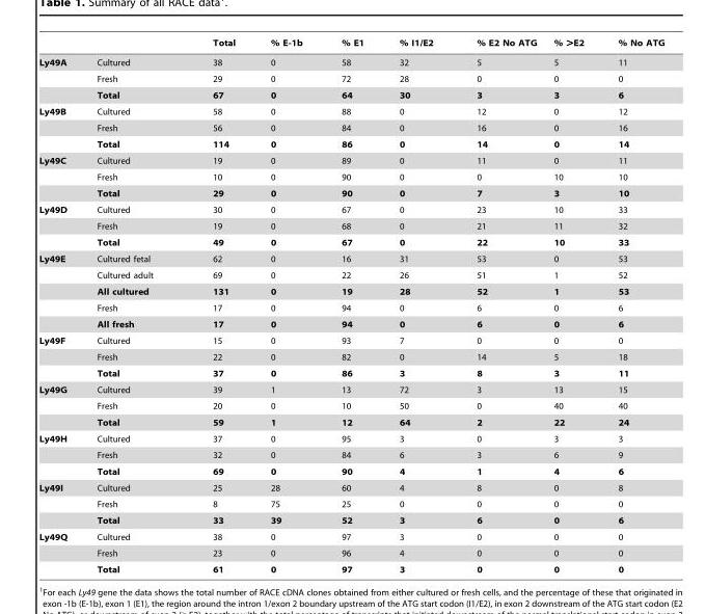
<table><thead><tr><td></td><td></td><td>Total</td><td>% E-1b</td><td>% E1</td><td>% I1/E2</td><td>% E2 No ATG</td><td>% &gt;E2</td><td>% No ATG</td></tr></thead><tbody><tr><td rowspan="3">Ly49A</td><td>Cultured</td><td>38</td><td>0</td><td>58</td><td>32</td><td>5</td><td>5</td><td>11</td></tr><tr><td>Fresh</td><td>29</td><td>0</td><td>72</td><td>28</td><td>0</td><td>0</td><td>0</td></tr><tr><td>Total</td><td>67</td><td>0</td><td>64</td><td>30</td><td>3</td><td>3</td><td>6</td></tr><tr><td rowspan="3">Ly49B</td><td>Cultured</td><td>58</td><td>0</td><td>88</td><td>0</td><td>12</td><td>0</td><td>12</td></tr><tr><td>Fresh</td><td>56</td><td>0</td><td>84</td><td>0</td><td>16</td><td>0</td><td>16</td></tr><tr><td>Total</td><td>114</td><td>0</td><td>86</td><td>0</td><td>14</td><td>0</td><td>14</td></tr><tr><td rowspan="3">Ly49C</td><td>Cultured</td><td>19</td><td>0</td><td>89</td><td>0</td><td>11</td><td>0</td><td>11</td></tr><tr><td>Fresh</td><td>10</td><td>0</td><td>90</td><td>0</td><td>0</td><td>10</td><td>10</td></tr><tr><td>Total</td><td>29</td><td>0</td><td>90</td><td>0</td><td>7</td><td>3</td><td>10</td></tr><tr><td rowspan="3">Ly49D</td><td>Cultured</td><td>30</td><td>0</td><td>67</td><td>0</td><td>23</td><td>10</td><td>33</td></tr><tr><td>Fresh</td><td>19</td><td>0</td><td>68</td><td>0</td><td>21</td><td>11</td><td>32</td></tr><tr><td>Total</td><td>49</td><td>0</td><td>67</td><td>0</td><td>22</td><td>10</td><td>33</td></tr><tr><td rowspan="5">Ly49E</td><td>Cultured fetal</td><td>62</td><td>0</td><td>16</td><td>31</td><td>53</td><td>0</td><td>53</td></tr><tr><td>Cultured adult</td><td>69</td><td>0</td><td>22</td><td>26</td><td>51</td><td>1</td><td>52</td></tr><tr><td>All cultured</td><td>131</td><td>0</td><td>19</td><td>28</td><td>52</td><td>1</td><td>53</td></tr><tr><td>Fresh</td><td>17</td><td>0</td><td>94</td><td>0</td><td>6</td><td>0</td><td>6</td></tr><tr><td>All fresh</td><td>17</td><td>0</td><td>94</td><td>0</td><td>6</td><td>0</td><td>6</td></tr><tr><td rowspan="3">Ly49F</td><td>Cultured</td><td>15</td><td>0</td><td>93</td><td>7</td><td>0</td><td>0</td><td>0</td></tr><tr><td>Fresh</td><td>22</td><td>0</td><td>82</td><td>0</td><td>14</td><td>5</td><td>18</td></tr><tr><td>Total</td><td>37</td><td>0</td><td>86</td><td>3</td><td>8</td><td>3</td><td>11</td></tr><tr><td rowspan="3">Ly49G</td><td>Cultured</td><td>39</td><td>1</td><td>13</td><td>72</td><td>3</td><td>13</td><td>15</td></tr><tr><td>Fresh</td><td>20</td><td>0</td><td>10</td><td>50</td><td>0</td><td>40</td><td>40</td></tr><tr><td>Total</td><td>59</td><td>1</td><td>12</td><td>64</td><td>2</td><td>22</td><td>24</td></tr><tr><td rowspan="3">Ly49H</td><td>Cultured</td><td>37</td><td>0</td><td>95</td><td>3</td><td>0</td><td>3</td><td>3</td></tr><tr><td>Fresh</td><td>32</td><td>0</td><td>84</td><td>6</td><td>3</td><td>6</td><td>9</td></tr><tr><td>Total</td><td>69</td><td>0</td><td>90</td><td>4</td><td>1</td><td>4</td><td>6</td></tr><tr><td rowspan="3">Ly49I</td><td>Cultured</td><td>25</td><td>28</td><td>60</td><td>4</td><td>8</td><td>0</td><td>8</td></tr><tr><td>Fresh</td><td>8</td><td>75</td><td>25</td><td>0</td><td>0</td><td>0</td><td>0</td></tr><tr><td>Total</td><td>33</td><td>39</td><td>52</td><td>3</td><td>6</td><td>0</td><td>6</td></tr><tr><td rowspan="3">Ly49Q</td><td>Cultured</td><td>38</td><td>0</td><td>97</td><td>3</td><td>0</td><td>0</td><td>0</td></tr><tr><td>Fresh</td><td>23</td><td>0</td><td>96</td><td>4</td><td>0</td><td>0</td><td>0</td></tr><tr><td>Total</td><td>61</td><td>0</td><td>97</td><td>3</td><td>0</td><td>0</td><td>0</td></tr></tbody></table>